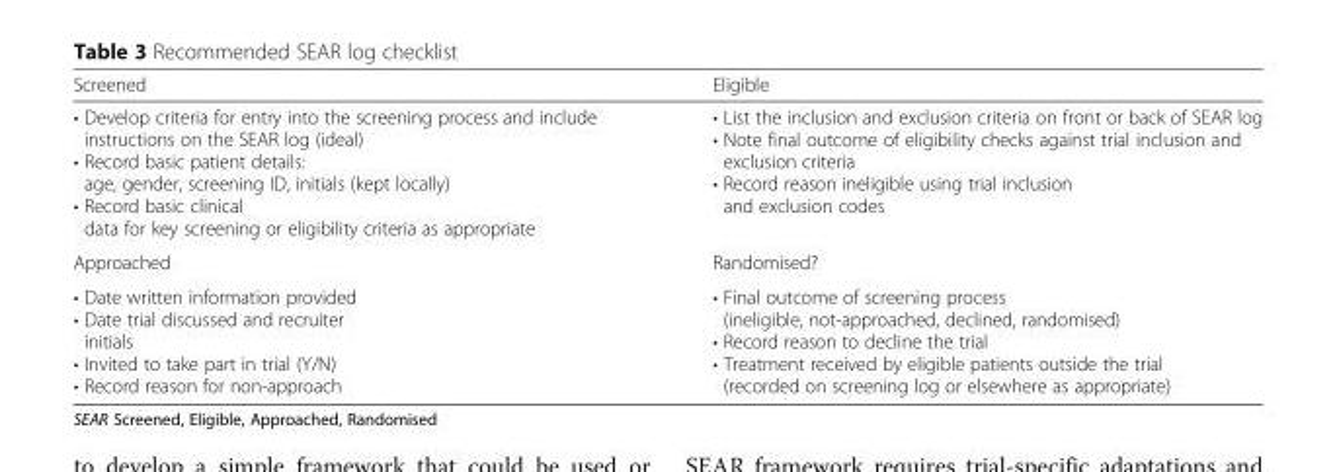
<table><thead><tr><td>Screened</td><td>Eligible</td></tr></thead><tbody><tr><td>• Develop criteria for entry into the screening process and include instructions on the SEAR log (ideal) • Record basic patient details: age, gender, screening ID, initials (kept locally) • Record basic clinical data for key screening or eligibility criteria as appropriate</td><td>• List the inclusion and exclusion criteria on front or back of SEAR log • Note final outcome of eligibility checks against trial inclusion and exclusion criteria • Record reason ineligible using trial inclusion and exclusion codes</td></tr><tr><td>Approached</td><td>Randomised?</td></tr><tr><td>• Date written information provided • Date trial discussed and recruiter initials • Invited to take part in trial (Y/N) • Record reason for non-approach</td><td>• Final outcome of screening process (ineligible, not-approached, declined, randomised) • Record reason to decline the trial • Treatment received by eligible patients outside the trial (recorded on screening log or elsewhere as appropriate)</td></tr></tbody></table>